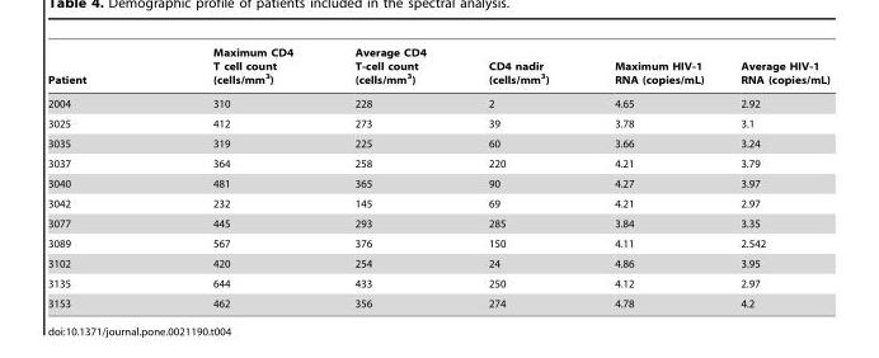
<table><thead><tr><td>Patient</td><td>Maximum CD4 T cell count (cells/mm<sup>3</sup>)</td><td>Average CD4 T-cell count (cells/mm<sup>3</sup>)</td><td>CD4 nadir (cells/mm<sup>3</sup>)</td><td>Maximum HIV-1 RNA (copies/mL)</td><td>Average HIV-1 RNA (copies/mL)</td></tr></thead><tbody><tr><td>2004</td><td>310</td><td>228</td><td>2</td><td>4.65</td><td>2.92</td></tr><tr><td>3025</td><td>412</td><td>273</td><td>39</td><td>3.78</td><td>3.1</td></tr><tr><td>3035</td><td>319</td><td>225</td><td>60</td><td>3.66</td><td>3.24</td></tr><tr><td>3037</td><td>364</td><td>258</td><td>220</td><td>4.21</td><td>3.79</td></tr><tr><td>3040</td><td>481</td><td>365</td><td>90</td><td>4.27</td><td>3.97</td></tr><tr><td>3042</td><td>232</td><td>145</td><td>69</td><td>4.21</td><td>2.97</td></tr><tr><td>3077</td><td>445</td><td>293</td><td>285</td><td>3.84</td><td>3.35</td></tr><tr><td>3089</td><td>567</td><td>376</td><td>150</td><td>4.11</td><td>2.542</td></tr><tr><td>3102</td><td>420</td><td>254</td><td>24</td><td>4.86</td><td>3.95</td></tr><tr><td>3135</td><td>644</td><td>433</td><td>250</td><td>4.12</td><td>2.97</td></tr><tr><td>3153</td><td>462</td><td>356</td><td>274</td><td>4.78</td><td>4.2</td></tr></tbody></table>